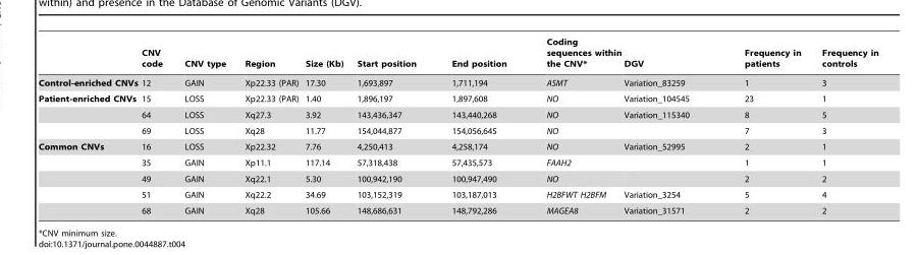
<table><thead><tr><td></td><td>CNV code</td><td>CNV type</td><td>Region</td><td>Size (Kb)</td><td>Start position</td><td>End position</td><td>Coding sequences within the CNV*</td><td>DGV</td><td>Frequency in patients</td><td>Frequency in controls</td></tr></thead><tbody><tr><td>Control-enriched CNVs</td><td>12</td><td>GAIN</td><td>Xp22.33 (PAR)</td><td>17.30</td><td>1,693,897</td><td>1,711,194</td><td>ASMT</td><td>Variation_83259</td><td>1</td><td>3</td></tr><tr><td rowspan="3">Patient-enriched CNVs</td><td>15</td><td>LOSS</td><td>Xp22.33 (PAR)</td><td>1.40</td><td>1,896,197</td><td>1,897,608</td><td>NO</td><td>Variation_104545</td><td>23</td><td>1</td></tr><tr><td>64</td><td>LOSS</td><td>Xq27.3</td><td>3.92</td><td>143,436,347</td><td>143,440,268</td><td>NO</td><td>Variation_115340</td><td>8</td><td>5</td></tr><tr><td>69</td><td>LOSS</td><td>Xq28</td><td>11.77</td><td>154,044,877</td><td>154,056,645</td><td>NO</td><td></td><td>7</td><td>3</td></tr><tr><td rowspan="5">Common CNVs</td><td>16</td><td>LOSS</td><td>Xp22.32</td><td>7.76</td><td>4,250,413</td><td>4,258,174</td><td>NO</td><td>Variation_52995</td><td>2</td><td>1</td></tr><tr><td>35</td><td>GAIN</td><td>Xp11.1</td><td>117.14</td><td>57,318,438</td><td>57,435,573</td><td>FAAH2</td><td></td><td>1</td><td>1</td></tr><tr><td>49</td><td>GAIN</td><td>Xq22.1</td><td>5.30</td><td>100,942,190</td><td>100,947,490</td><td>NO</td><td></td><td>2</td><td>2</td></tr><tr><td>51</td><td>GAIN</td><td>Xq22.2</td><td>34.69</td><td>103,152,319</td><td>103,187,013</td><td>H2BFWT H2BFM</td><td>Variation_3254</td><td>5</td><td>4</td></tr><tr><td>68</td><td>GAIN</td><td>Xq28</td><td>105.66</td><td>148,686,631</td><td>148,792,286</td><td>MAGEA8</td><td>Variation_31571</td><td>2</td><td>2</td></tr></tbody></table>